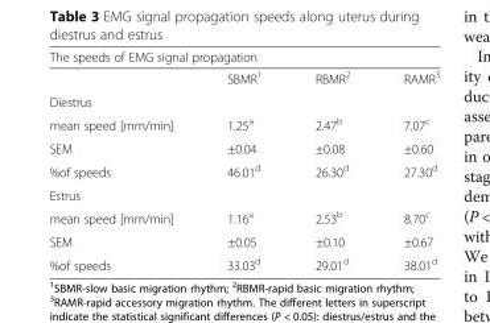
<table><thead><tr><td colspan="4">The speeds of EMG signal propagation</td></tr><tr><td></td><td>SBMR<sup>1</sup></td><td>RBMR<sup>2</sup></td><td>RAMR<sup>3</sup></td></tr></thead><tbody><tr><td colspan="4">Diestrus</td></tr><tr><td>mean speed [mm/min]</td><td>1.25<sup>a</sup></td><td>2.47<sup>b</sup></td><td>7.07<sup>c</sup></td></tr><tr><td>SEM</td><td>±0.04</td><td>±0.08</td><td>±0.60</td></tr><tr><td>%of speeds</td><td>46.01<sup>d</sup></td><td>26.30<sup>d</sup></td><td>27.30<sup>d</sup></td></tr><tr><td colspan="4">Estrus</td></tr><tr><td>mean speed [mm/min]</td><td>1.16<sup>a</sup></td><td>2.53<sup>b</sup></td><td>8.70<sup>c</sup></td></tr><tr><td>SEM</td><td>±0.05</td><td>±0.10</td><td>±0.67</td></tr><tr><td>%of speeds</td><td>33.03<sup>d</sup></td><td>29.01<sup>d</sup></td><td>38.01<sup>d</sup></td></tr></tbody></table>